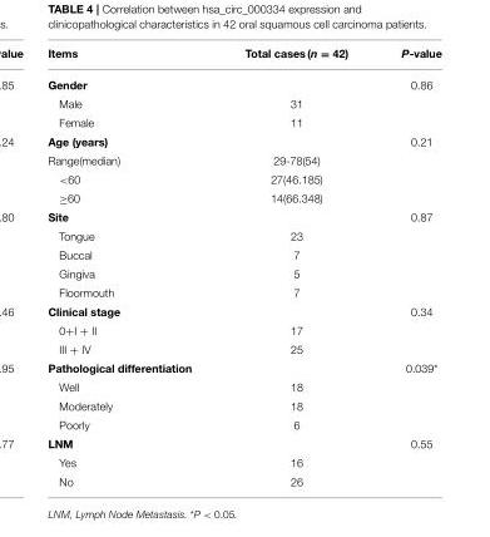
<table><thead><tr><td>Items</td><td>Total cases (n = 42)</td><td>P-value</td></tr></thead><tbody><tr><td>Gender</td><td></td><td>0.86</td></tr><tr><td>Male</td><td>31</td><td></td></tr><tr><td>Female</td><td>11</td><td></td></tr><tr><td>Age (years)</td><td></td><td>0.21</td></tr><tr><td>Range(median)</td><td>29-78(54)</td><td></td></tr><tr><td>&lt;60</td><td>27(46.185)</td><td></td></tr><tr><td>≥60</td><td>14(66.348)</td><td></td></tr><tr><td>Site</td><td></td><td>0.87</td></tr><tr><td>Tongue</td><td>23</td><td></td></tr><tr><td>Buccal</td><td>7</td><td></td></tr><tr><td>Gingiva</td><td>5</td><td></td></tr><tr><td>Floormouth</td><td>7</td><td></td></tr><tr><td>Clinical stage</td><td></td><td>0.34</td></tr><tr><td>0+I + II</td><td>17</td><td></td></tr><tr><td>III + IV</td><td>25</td><td></td></tr><tr><td>Pathological differentiation</td><td></td><td>0.039*</td></tr><tr><td>Well</td><td>18</td><td></td></tr><tr><td>Moderately</td><td>18</td><td></td></tr><tr><td>Poorly</td><td>6</td><td></td></tr><tr><td>LNM</td><td></td><td>0.55</td></tr><tr><td>Yes</td><td>16</td><td></td></tr><tr><td>No</td><td>26</td><td></td></tr></tbody></table>